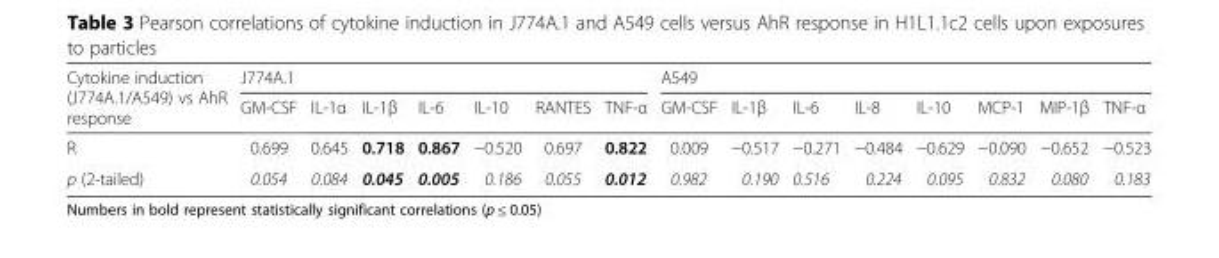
<table><thead><tr><td rowspan="2">Cytokine induction (J774A.1/A549) vs AhR response</td><td colspan="7">J774A.1</td><td colspan="8">A549</td></tr><tr><td>GM-CSF</td><td>IL-1α</td><td>IL-1β</td><td>IL-6</td><td>IL-10</td><td>RANTES</td><td>TNF-α</td><td>GM-CSF</td><td>IL-1β</td><td>IL-6</td><td>IL-8</td><td>IL-10</td><td>MCP-1</td><td>MIP-1β</td><td>TNF-α</td></tr></thead><tbody><tr><td>R</td><td>0.699</td><td>0.645</td><td>0.718</td><td>0.867</td><td>−0.520</td><td>0.697</td><td>0.822</td><td>0.009</td><td>−0.517</td><td>−0.271</td><td>−0.484</td><td>−0.629</td><td>−0.090</td><td>−0.652</td><td>−0.523</td></tr><tr><td>p (2-tailed)</td><td>0.054</td><td>0.084</td><td>0.045</td><td>0.005</td><td>0.186</td><td>0.055</td><td>0.012</td><td>0.982</td><td>0.190</td><td>0.516</td><td>0.224</td><td>0.095</td><td>0.832</td><td>0.080</td><td>0.183</td></tr></tbody></table>